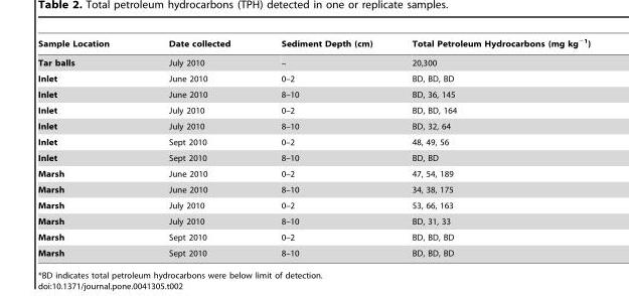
<table><thead><tr><td>Sample Location</td><td>Date collected</td><td>Sediment Depth (cm)</td><td>Total Petroleum Hydrocarbons (mg kg<sup>−1</sup>)</td></tr></thead><tbody><tr><td>Tar balls</td><td>July 2010</td><td>–</td><td>20,300</td></tr><tr><td>Inlet</td><td>June 2010</td><td>0–2</td><td>BD, BD, BD</td></tr><tr><td>Inlet</td><td>June 2010</td><td>8–10</td><td>BD, 36, 145</td></tr><tr><td>Inlet</td><td>July 2010</td><td>0–2</td><td>BD, BD, 164</td></tr><tr><td>Inlet</td><td>July 2010</td><td>8–10</td><td>BD, 32, 64</td></tr><tr><td>Inlet</td><td>Sept 2010</td><td>0–2</td><td>48, 49, 56</td></tr><tr><td>Inlet</td><td>Sept 2010</td><td>8–10</td><td>BD, BD</td></tr><tr><td>Marsh</td><td>June 2010</td><td>0–2</td><td>47, 54, 189</td></tr><tr><td>Marsh</td><td>June 2010</td><td>8–10</td><td>34, 38, 175</td></tr><tr><td>Marsh</td><td>July 2010</td><td>0–2</td><td>53, 66, 163</td></tr><tr><td>Marsh</td><td>July 2010</td><td>8–10</td><td>BD, 31, 33</td></tr><tr><td>Marsh</td><td>Sept 2010</td><td>0–2</td><td>BD, BD, BD</td></tr><tr><td>Marsh</td><td>Sept 2010</td><td>8–10</td><td>BD, BD, BD</td></tr></tbody></table>